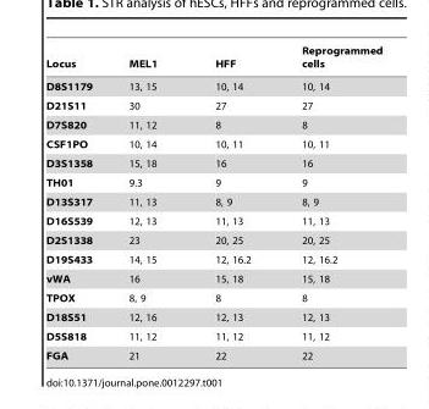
<table><thead><tr><td>Locus</td><td>MEL1</td><td>HFF</td><td>Reprogrammed cells</td></tr></thead><tbody><tr><td>D8S1179</td><td>13, 15</td><td>10, 14</td><td>10, 14</td></tr><tr><td>D21S11</td><td>30</td><td>27</td><td>27</td></tr><tr><td>D7S820</td><td>11, 12</td><td>8</td><td>8</td></tr><tr><td>CSF1PO</td><td>10, 14</td><td>10, 11</td><td>10, 11</td></tr><tr><td>D3S1358</td><td>15, 18</td><td>16</td><td>16</td></tr><tr><td>TH01</td><td>9.3</td><td>9</td><td>9</td></tr><tr><td>D13S317</td><td>11, 13</td><td>8, 9</td><td>8, 9</td></tr><tr><td>D16S539</td><td>12, 13</td><td>11, 13</td><td>11, 13</td></tr><tr><td>D2S1338</td><td>23</td><td>20, 25</td><td>20, 25</td></tr><tr><td>D19S433</td><td>14, 15</td><td>12, 16.2</td><td>12, 16.2</td></tr><tr><td>vWA</td><td>16</td><td>15, 18</td><td>15, 18</td></tr><tr><td>TPOX</td><td>8, 9</td><td>8</td><td>8</td></tr><tr><td>D18S51</td><td>12, 16</td><td>12, 13</td><td>12, 13</td></tr><tr><td>D5S818</td><td>11, 12</td><td>11, 12</td><td>11, 12</td></tr><tr><td>FGA</td><td>21</td><td>22</td><td>22</td></tr></tbody></table>